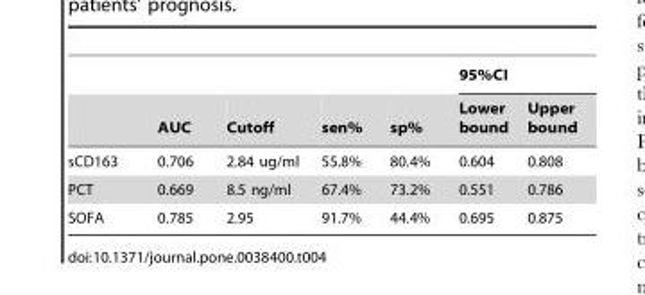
<table><thead><tr><td rowspan="2"></td><td rowspan="2">AUC</td><td rowspan="2">Cutoff</td><td rowspan="2">sen%</td><td rowspan="2">sp%</td><td colspan="2">95%CI</td></tr><tr><td>Lower bound</td><td>Upper bound</td></tr></thead><tbody><tr><td>sCD163</td><td>0.706</td><td>2.84 ug/ml</td><td>55.8%</td><td>80.4%</td><td>0.604</td><td>0.808</td></tr><tr><td>PCT</td><td>0.669</td><td>8.5 ng/ml</td><td>67.4%</td><td>73.2%</td><td>0.551</td><td>0.786</td></tr><tr><td>SOFA</td><td>0.785</td><td>2.95</td><td>91.7%</td><td>44.4%</td><td>0.695</td><td>0.875</td></tr></tbody></table>